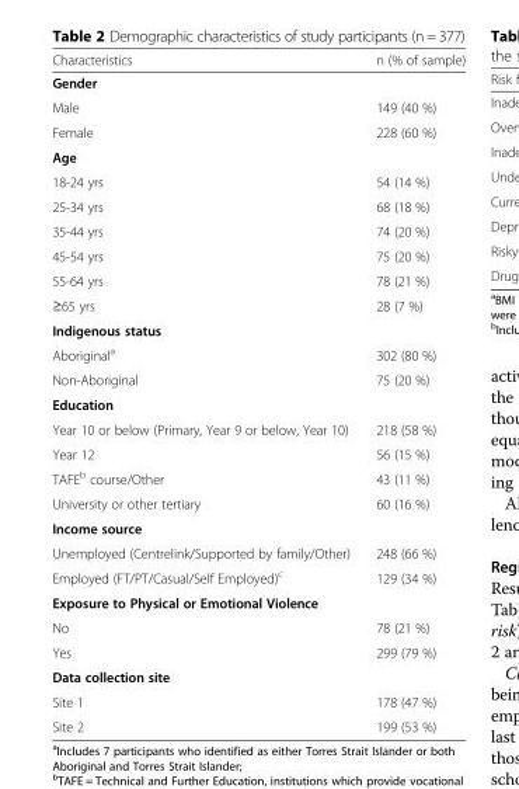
<table><thead><tr><td>Characteristics</td><td>n (% of sample)</td></tr></thead><tbody><tr><td colspan="2">Gender</td></tr><tr><td>Male</td><td>149 (40 %)</td></tr><tr><td>Female</td><td>228 (60 %)</td></tr><tr><td colspan="2">Age</td></tr><tr><td>18-24 yrs</td><td>54 (14 %)</td></tr><tr><td>25-34 yrs</td><td>68 (18 %)</td></tr><tr><td>35-44 yrs</td><td>74 (20 %)</td></tr><tr><td>45-54 yrs</td><td>75 (20 %)</td></tr><tr><td>55-64 yrs</td><td>78 (21 %)</td></tr><tr><td>≥65 yrs</td><td>28 (7 %)</td></tr><tr><td colspan="2">Indigenous status</td></tr><tr><td>Aboriginal<sup>a</sup></td><td>302 (80 %)</td></tr><tr><td>Non-Aboriginal</td><td>75 (20 %)</td></tr><tr><td colspan="2">Education</td></tr><tr><td>Year 10 or below (Primary, Year 9 or below, Year 10)</td><td>218 (58 %)</td></tr><tr><td>Year 12</td><td>56 (15 %)</td></tr><tr><td>TAFE<sup>b</sup> course/Other</td><td>43 (11 %)</td></tr><tr><td>University or other tertiary</td><td>60 (16 %)</td></tr><tr><td colspan="2">Income source</td></tr><tr><td>Unemployed (Centrelink/Supported by family/Other)</td><td>248 (66 %)</td></tr><tr><td>Employed (FT/PT/Casual/Self Employed)<sup>c</sup></td><td>129 (34 %)</td></tr><tr><td colspan="2">Exposure to Physical or Emotional Violence</td></tr><tr><td>No</td><td>78 (21 %)</td></tr><tr><td>Yes</td><td>299 (79 %)</td></tr><tr><td colspan="2">Data collection site</td></tr><tr><td>Site 1</td><td>178 (47 %)</td></tr><tr><td>Site 2</td><td>199 (53 %)</td></tr></tbody></table>